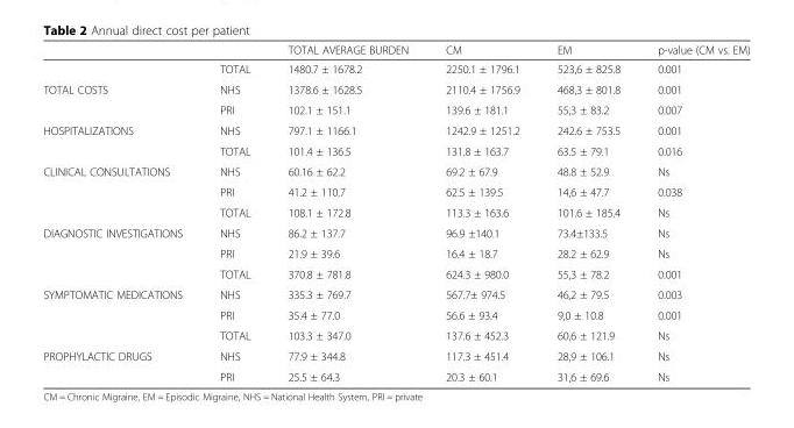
<table><thead><tr><td></td><td></td><td>TOTAL AVERAGE BURDEN</td><td>CM</td><td>EM</td><td>p-value (CM vs. EM)</td></tr></thead><tbody><tr><td rowspan="3">TOTAL COSTS</td><td>TOTAL</td><td>1480.7 ± 1678.2</td><td>2250.1 ± 1796.1</td><td>523,6 ± 825.8</td><td>0.001</td></tr><tr><td>NHS</td><td>1378.6 ± 1628.5</td><td>2110.4 ± 1756.9</td><td>468,3 ± 801.8</td><td>0.001</td></tr><tr><td>PRI</td><td>102.1 ± 151.1</td><td>139.6 ± 181.1</td><td>55,3 ± 83.2</td><td>0.007</td></tr><tr><td>HOSPITALIZATIONS</td><td>NHS</td><td>797.1 ± 1166.1</td><td>1242.9 ± 1251.2</td><td>242.6 ± 753.5</td><td>0.001</td></tr><tr><td rowspan="3">CLINICAL CONSULTATIONS</td><td>TOTAL</td><td>101.4 ± 136.5</td><td>131.8 ± 163.7</td><td>63.5 ± 79.1</td><td>0.016</td></tr><tr><td>NHS</td><td>60.16 ± 62.2</td><td>69.2 ± 67.9</td><td>48.8 ± 52.9</td><td>Ns</td></tr><tr><td>PRI</td><td>41.2 ± 110.7</td><td>62.5 ± 139.5</td><td>14,6 ± 47.7</td><td>0.038</td></tr><tr><td rowspan="3">DIAGNOSTIC INVESTIGATIONS</td><td>TOTAL</td><td>108.1 ± 172.8</td><td>113.3 ± 163.6</td><td>101.6 ± 185.4</td><td>Ns</td></tr><tr><td>NHS</td><td>86.2 ± 137.7</td><td>96.9 ±140.1</td><td>73.4±133.5</td><td>Ns</td></tr><tr><td>PRI</td><td>21.9 ± 39.6</td><td>16.4 ± 18.7</td><td>28.2 ± 62.9</td><td>Ns</td></tr><tr><td rowspan="3">SYMPTOMATIC MEDICATIONS</td><td>TOTAL</td><td>370.8 ± 781.8</td><td>624.3 ± 980.0</td><td>55,3 ± 78.2</td><td>0.001</td></tr><tr><td>NHS</td><td>335.3 ± 769.7</td><td>567.7± 974.5</td><td>46,2 ± 79.5</td><td>0.003</td></tr><tr><td>PRI</td><td>35.4 ± 77.0</td><td>56.6 ± 93.4</td><td>9,0 ± 10.8</td><td>0.001</td></tr><tr><td rowspan="3">PROPHYLACTIC DRUGS</td><td>TOTAL</td><td>103.3 ± 347.0</td><td>137.6 ± 452.3</td><td>60,6 ± 121.9</td><td>Ns</td></tr><tr><td>NHS</td><td>77.9 ± 344.8</td><td>117.3 ± 451.4</td><td>28,9 ± 106.1</td><td>Ns</td></tr><tr><td>PRI</td><td>25.5 ± 64.3</td><td>20.3 ± 60.1</td><td>31,6 ± 69.6</td><td>Ns</td></tr></tbody></table>